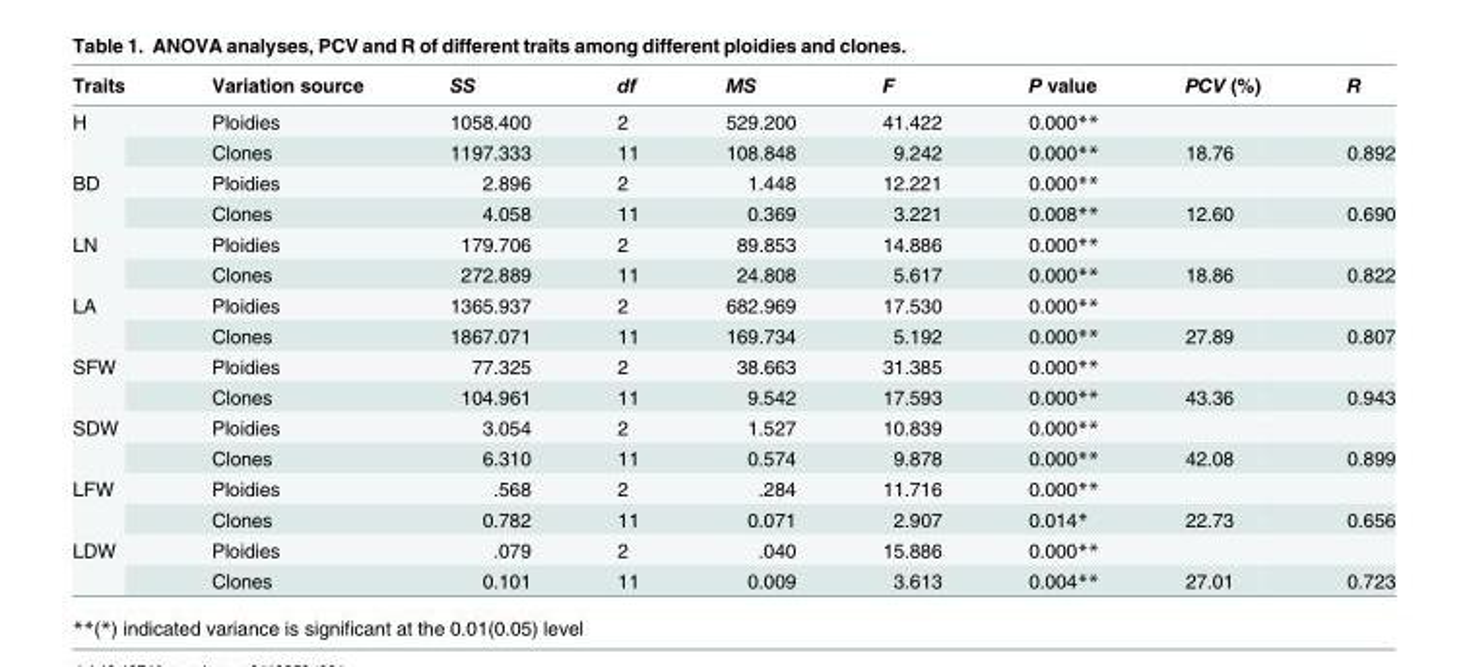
<table><thead><tr><td>Traits</td><td>Variation source</td><td>SS</td><td>df</td><td>MS</td><td>F</td><td>P value</td><td>PCV (%)</td><td>R</td></tr></thead><tbody><tr><td rowspan="2">H</td><td>Ploidies</td><td>1058.400</td><td>2</td><td>529.200</td><td>41.422</td><td>0.000**</td><td></td><td></td></tr><tr><td>Clones</td><td>1197.333</td><td>11</td><td>108.848</td><td>9.242</td><td>0.000**</td><td>18.76</td><td>0.892</td></tr><tr><td rowspan="2">BD</td><td>Ploidies</td><td>2.896</td><td>2</td><td>1.448</td><td>12.221</td><td>0.000**</td><td></td><td></td></tr><tr><td>Clones</td><td>4.058</td><td>11</td><td>0.369</td><td>3.221</td><td>0.008**</td><td>12.60</td><td>0.690</td></tr><tr><td rowspan="2">LN</td><td>Ploidies</td><td>179.706</td><td>2</td><td>89.853</td><td>14.886</td><td>0.000**</td><td></td><td></td></tr><tr><td>Clones</td><td>272.889</td><td>11</td><td>24.808</td><td>5.617</td><td>0.000**</td><td>18.86</td><td>0.822</td></tr><tr><td rowspan="2">LA</td><td>Ploidies</td><td>1365.937</td><td>2</td><td>682.969</td><td>17.530</td><td>0.000**</td><td></td><td></td></tr><tr><td>Clones</td><td>1867.071</td><td>11</td><td>169.734</td><td>5.192</td><td>0.000**</td><td>27.89</td><td>0.807</td></tr><tr><td rowspan="2">SFW</td><td>Ploidies</td><td>77.325</td><td>2</td><td>38.663</td><td>31.385</td><td>0.000**</td><td></td><td></td></tr><tr><td>Clones</td><td>104.961</td><td>11</td><td>9.542</td><td>17.593</td><td>0.000**</td><td>43.36</td><td>0.943</td></tr><tr><td rowspan="2">SDW</td><td>Ploidies</td><td>3.054</td><td>2</td><td>1.527</td><td>10.839</td><td>0.000**</td><td></td><td></td></tr><tr><td>Clones</td><td>6.310</td><td>11</td><td>0.574</td><td>9.878</td><td>0.000**</td><td>42.08</td><td>0.899</td></tr><tr><td rowspan="2">LFW</td><td>Ploidies</td><td>.568</td><td>2</td><td>.284</td><td>11.716</td><td>0.000**</td><td></td><td></td></tr><tr><td>Clones</td><td>0.782</td><td>11</td><td>0.071</td><td>2.907</td><td>0.014*</td><td>22.73</td><td>0.656</td></tr><tr><td rowspan="2">LDW</td><td>Ploidies</td><td>.079</td><td>2</td><td>.040</td><td>15.886</td><td>0.000**</td><td></td><td></td></tr><tr><td>Clones</td><td>0.101</td><td>11</td><td>0.009</td><td>3.613</td><td>0.004**</td><td>27.01</td><td>0.723</td></tr></tbody></table>